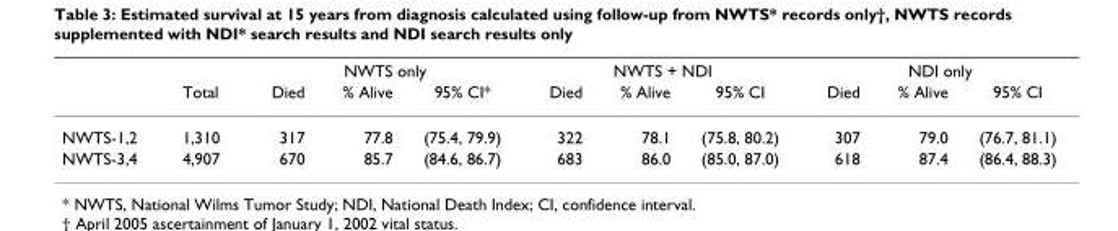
<table><thead><tr><td rowspan="2"></td><td rowspan="2">Total</td><td colspan="3">NWTS only</td><td colspan="3">NWTS + NDI</td><td colspan="3">NDI only</td></tr><tr><td>Died</td><td>% Alive</td><td>95% CI*</td><td>Died</td><td>% Alive</td><td>95% CI</td><td>Died</td><td>% Alive</td><td>95% CI</td></tr></thead><tbody><tr><td>NWTS-1,2</td><td>1,310</td><td>317</td><td>77.8</td><td>(75.4, 79.9)</td><td>322</td><td>78.1</td><td>(75.8, 80.2)</td><td>307</td><td>79.0</td><td>(76.7, 81.1)</td></tr><tr><td>NWTS-3,4</td><td>4,907</td><td>670</td><td>85.7</td><td>(84.6, 86.7)</td><td>683</td><td>86.0</td><td>(85.0, 87.0)</td><td>618</td><td>87.4</td><td>(86.4, 88.3)</td></tr></tbody></table>